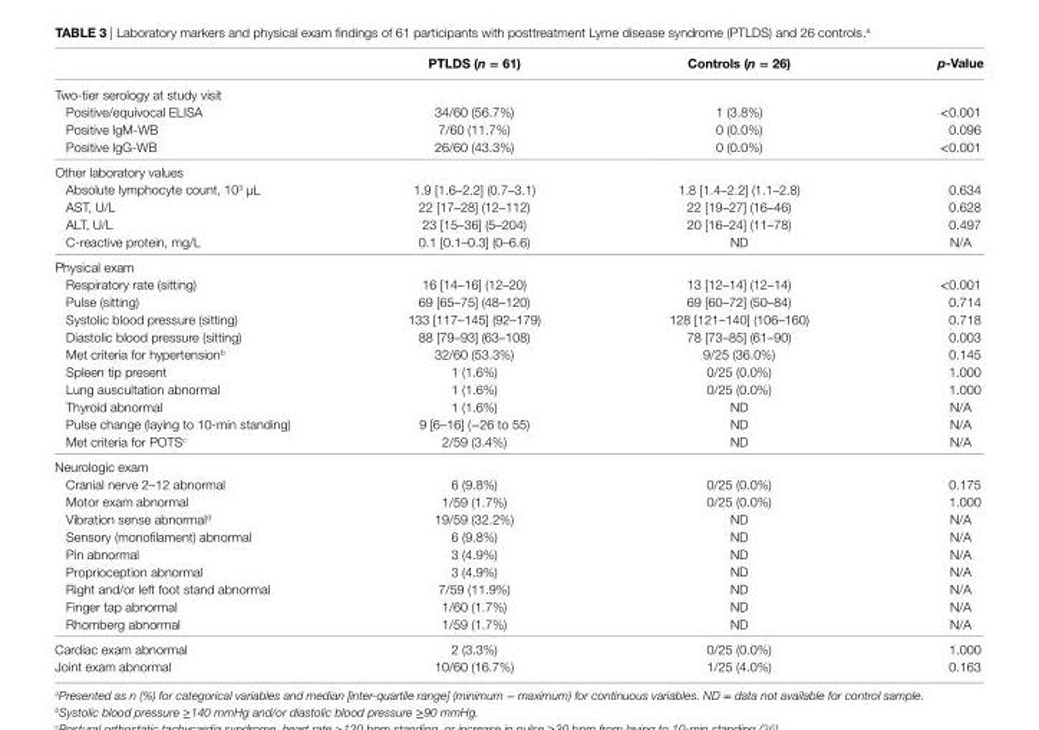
<table><thead><tr><td></td><td>PTlDs (n = 61)</td><td>controls (n = 26)</td><td>p-Value</td></tr></thead><tbody><tr><td>Two-tier serology at study visit Positive/equivocal ELISA Positive IgM-WB Positive IgG-WB</td><td>34/60 (56.7%) 7/60 (11.7%) 26/60 (43.3%)</td><td>1 (3.8%) 0 (0.0%) 0 (0.0%)</td><td>&lt;0.001 0.096 &lt;0.001</td></tr><tr><td>Other laboratory values Absolute lymphocyte count, 10<sup>3</sup> µL AST, U/L ALT, U/L C-reactive protein, mg/L</td><td>1.9 [1.6–2.2] (0.7–3.1) 22 [17–28] (12–112) 23 [15–36] (5–204) 0.1 [0.1–0.3] (0–6.6)</td><td>1.8 [1.4–2.2] (1.1–2.8) 22 [19–27] (16–46) 20 [16–24] (11–78) ND</td><td>0.634 0.628 0.497 N/A</td></tr><tr><td>Physical exam Respiratory rate (sitting) Pulse (sitting) Systolic blood pressure (sitting) Diastolic blood pressure (sitting) Met criteria for hypertension<sup>b</sup> Spleen tip present Lung auscultation abnormal Thyroid abnormal Pulse change (laying to 10-min standing) Met criteria for POTS<sup>c</sup></td><td>16 [14–16] (12–20) 69 [65–75] (48–120) 133 [117–145] (92–179) 88 [79–93] (63–108) 32/60 (53.3%) 1 (1.6%) 1 (1.6%) 1 (1.6%) 9 [6–16] (−26 to 55) 2/59 (3.4%)</td><td>13 [12–14] (12–14) 69 [60–72] (50–84) 128 [121–140] (106–160) 78 [73–85] (61–90) 9/25 (36.0%) 0/25 (0.0%) 0/25 (0.0%) ND ND ND</td><td>&lt;0.001 0.714 0.718 0.003 0.145 1.000 1.000 N/A N/A N/A</td></tr><tr><td>Neurologic exam Cranial nerve 2–12 abnormal Motor exam abnormal Vibration sense abnormal<sup>d</sup> Sensory (monofilament) abnormal Pin abnormal Proprioception abnormal Right and/or left foot stand abnormal Finger tap abnormal Rhomberg abnormal</td><td>6 (9.8%) 1/59 (1.7%) 19/59 (32.2%) 6 (9.8%) 3 (4.9%) 3 (4.9%) 7/59 (11.9%) 1/60 (1.7%) 1/59 (1.7%)</td><td>0/25 (0.0%) 0/25 (0.0%) ND ND ND ND ND ND ND</td><td>0.175 1.000 N/A N/A N/A N/A N/A N/A N/A</td></tr><tr><td>Cardiac exam abnormal Joint exam abnormal</td><td>2 (3.3%) 10/60 (16.7%)</td><td>0/25 (0.0%) 1/25 (4.0%)</td><td>1.000 0.163</td></tr></tbody></table>